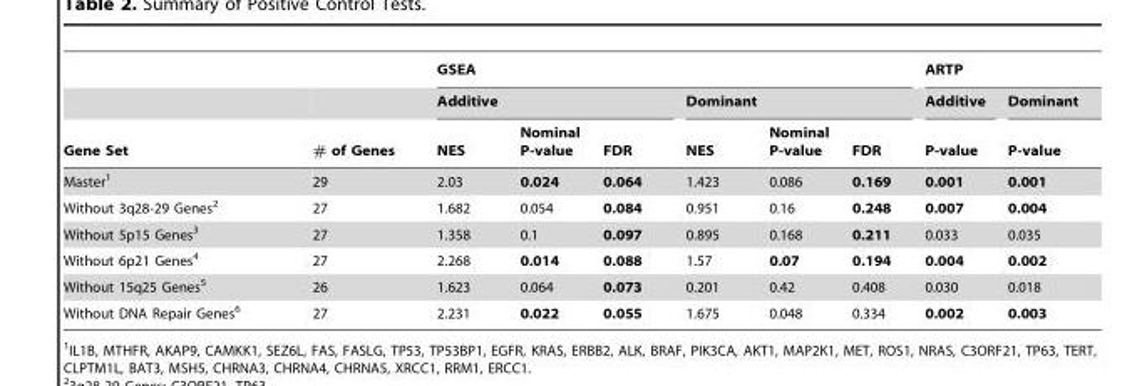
<table><thead><tr><td rowspan="3">Gene Set</td><td rowspan="3"># of Genes</td><td colspan="6">GSEA</td><td colspan="2">ARTP</td></tr><tr><td colspan="3">Additive</td><td colspan="3">Dominant</td><td rowspan="2">Additive P-value</td><td rowspan="2">Dominant P-value</td></tr><tr><td>NES</td><td>Nominal P-value</td><td>FDR</td><td>NES</td><td>Nominal P-value</td><td>FDR</td></tr></thead><tbody><tr><td>Master<sup>1</sup></td><td>29</td><td>2.03</td><td>0.024</td><td>0.064</td><td>1.423</td><td>0.086</td><td>0.169</td><td>0.001</td><td>0.001</td></tr><tr><td>Without 3q28-29 Genes<sup>2</sup></td><td>27</td><td>1.682</td><td>0.054</td><td>0.084</td><td>0.951</td><td>0.16</td><td>0.248</td><td>0.007</td><td>0.004</td></tr><tr><td>Without 5p15 Genes<sup>3</sup></td><td>27</td><td>1.358</td><td>0.1</td><td>0.097</td><td>0.895</td><td>0.168</td><td>0.211</td><td>0.033</td><td>0.035</td></tr><tr><td>Without 6p21 Genes<sup>4</sup></td><td>27</td><td>2.268</td><td>0.014</td><td>0.088</td><td>1.57</td><td>0.07</td><td>0.194</td><td>0.004</td><td>0.002</td></tr><tr><td>Without 15q25 Genes<sup>5</sup></td><td>26</td><td>1.623</td><td>0.064</td><td>0.073</td><td>0.201</td><td>0.42</td><td>0.408</td><td>0.030</td><td>0.018</td></tr><tr><td>Without DNA Repair Genes<sup>6</sup></td><td>27</td><td>2.231</td><td>0.022</td><td>0.055</td><td>1.675</td><td>0.048</td><td>0.334</td><td>0.002</td><td>0.003</td></tr></tbody></table>